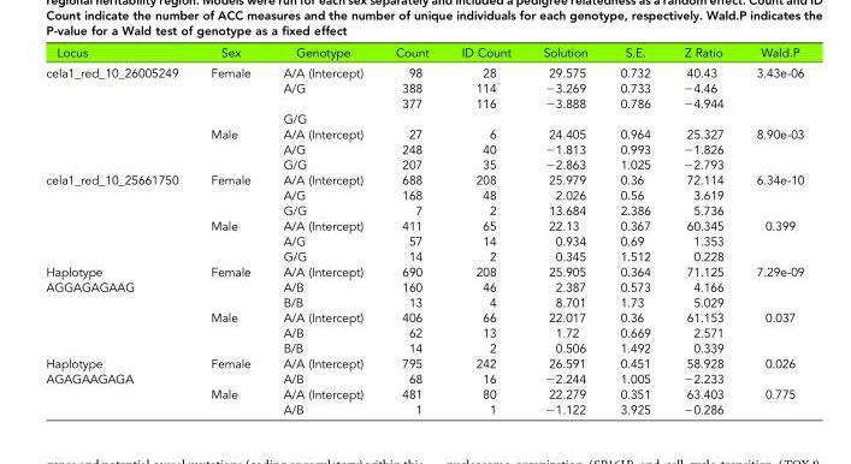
<table><thead><tr><td>Locus</td><td>Sex</td><td>Genotype</td><td>Count</td><td>ID Count</td><td>Solution</td><td>S.E.</td><td>Z Ratio</td><td>Wald.P</td></tr></thead><tbody><tr><td rowspan="6">cela1_red_10_26005249</td><td>Female</td><td>A/A (Intercept)</td><td>98</td><td>28</td><td>29.575</td><td>0.732</td><td>40.43</td><td>3.43e-06</td></tr><tr><td></td><td>A/G</td><td>388</td><td>114</td><td>−3.269</td><td>0.733</td><td>−4.46</td><td></td></tr><tr><td></td><td>G/G</td><td>377</td><td>116</td><td>−3.888</td><td>0.786</td><td>−4.944</td><td></td></tr><tr><td>Male</td><td>A/A (Intercept)</td><td>27</td><td>6</td><td>24.405</td><td>0.964</td><td>25.327</td><td>8.90e-03</td></tr><tr><td></td><td>A/G</td><td>248</td><td>40</td><td>−1.813</td><td>0.993</td><td>−1.826</td><td></td></tr><tr><td></td><td>G/G</td><td>207</td><td>35</td><td>−2.863</td><td>1.025</td><td>−2.793</td><td></td></tr><tr><td rowspan="6">cela1_red_10_25661750</td><td>Female</td><td>A/A (Intercept)</td><td>688</td><td>208</td><td>25.979</td><td>0.36</td><td>72.114</td><td>6.34e-10</td></tr><tr><td></td><td>A/G</td><td>168</td><td>48</td><td>2.026</td><td>0.56</td><td>3.619</td><td></td></tr><tr><td></td><td>G/G</td><td>7</td><td>2</td><td>13.684</td><td>2.386</td><td>5.736</td><td></td></tr><tr><td>Male</td><td>A/A (Intercept)</td><td>411</td><td>65</td><td>22.13</td><td>0.367</td><td>60.345</td><td>0.399</td></tr><tr><td></td><td>A/G</td><td>57</td><td>14</td><td>0.934</td><td>0.69</td><td>1.353</td><td></td></tr><tr><td></td><td>G/G</td><td>14</td><td>2</td><td>0.345</td><td>1.512</td><td>0.228</td><td></td></tr><tr><td>Haplotype</td><td>Female</td><td>A/A (Intercept)</td><td>690</td><td>208</td><td>25.905</td><td>0.364</td><td>71.125</td><td>7.29e-09</td></tr><tr><td rowspan="5">AGGAGAGAAG</td><td></td><td>A/B</td><td>160</td><td>46</td><td>2.387</td><td>0.573</td><td>4.166</td><td></td></tr><tr><td></td><td>B/B</td><td>13</td><td>4</td><td>8.701</td><td>1.73</td><td>5.029</td><td></td></tr><tr><td>Male</td><td>A/A (Intercept)</td><td>406</td><td>66</td><td>22.017</td><td>0.36</td><td>61.153</td><td>0.037</td></tr><tr><td></td><td>A/B</td><td>62</td><td>13</td><td>1.72</td><td>0.669</td><td>2.571</td><td></td></tr><tr><td></td><td>B/B</td><td>14</td><td>2</td><td>0.506</td><td>1.492</td><td>0.339</td><td></td></tr><tr><td>Haplotype</td><td>Female</td><td>A/A (Intercept)</td><td>795</td><td>242</td><td>26.591</td><td>0.451</td><td>58.928</td><td>0.026</td></tr><tr><td rowspan="3">AGAGAAGAGA</td><td></td><td>A/B</td><td>68</td><td>16</td><td>−2.244</td><td>1.005</td><td>−2.233</td><td></td></tr><tr><td>Male</td><td>A/A (Intercept)</td><td>481</td><td>80</td><td>22.279</td><td>0.351</td><td>63.403</td><td>0.775</td></tr><tr><td></td><td>A/B</td><td>1</td><td>1</td><td>−1.122</td><td>3.925</td><td>−0.286</td><td></td></tr></tbody></table>